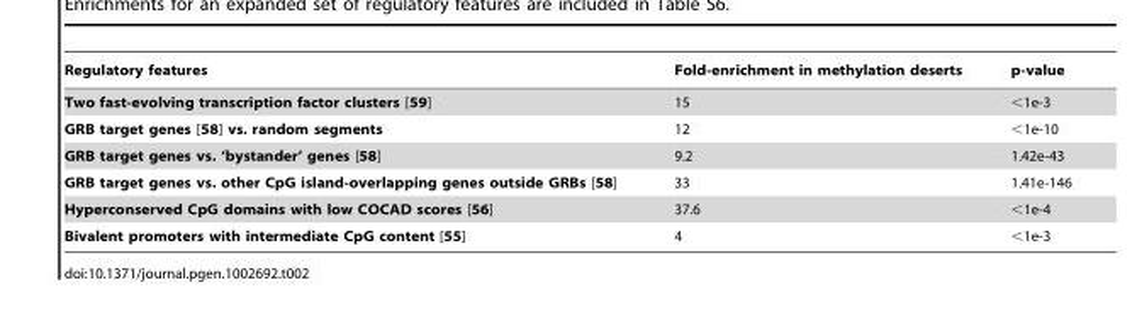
<table><thead><tr><td>Regulatory features</td><td>Fold-enrichment in methylation deserts</td><td>p-value</td></tr></thead><tbody><tr><td>Two fast-evolving transcription factor clusters [59]</td><td>15</td><td>&lt;1e-3</td></tr><tr><td>GRB target genes [58] vs. random segments</td><td>12</td><td>&lt;1e-10</td></tr><tr><td>GRB target genes vs. ‘bystander’ genes [58]</td><td>9.2</td><td>1.42e-43</td></tr><tr><td>GRB target genes vs. other CpG island-overlapping genes outside GRBs [58]</td><td>33</td><td>1.41e-146</td></tr><tr><td>Hyperconserved CpG domains with low COCAD scores [56]</td><td>37.6</td><td>&lt;1e-4</td></tr><tr><td>Bivalent promoters with intermediate CpG content [55]</td><td>4</td><td>&lt;1e-3</td></tr></tbody></table>